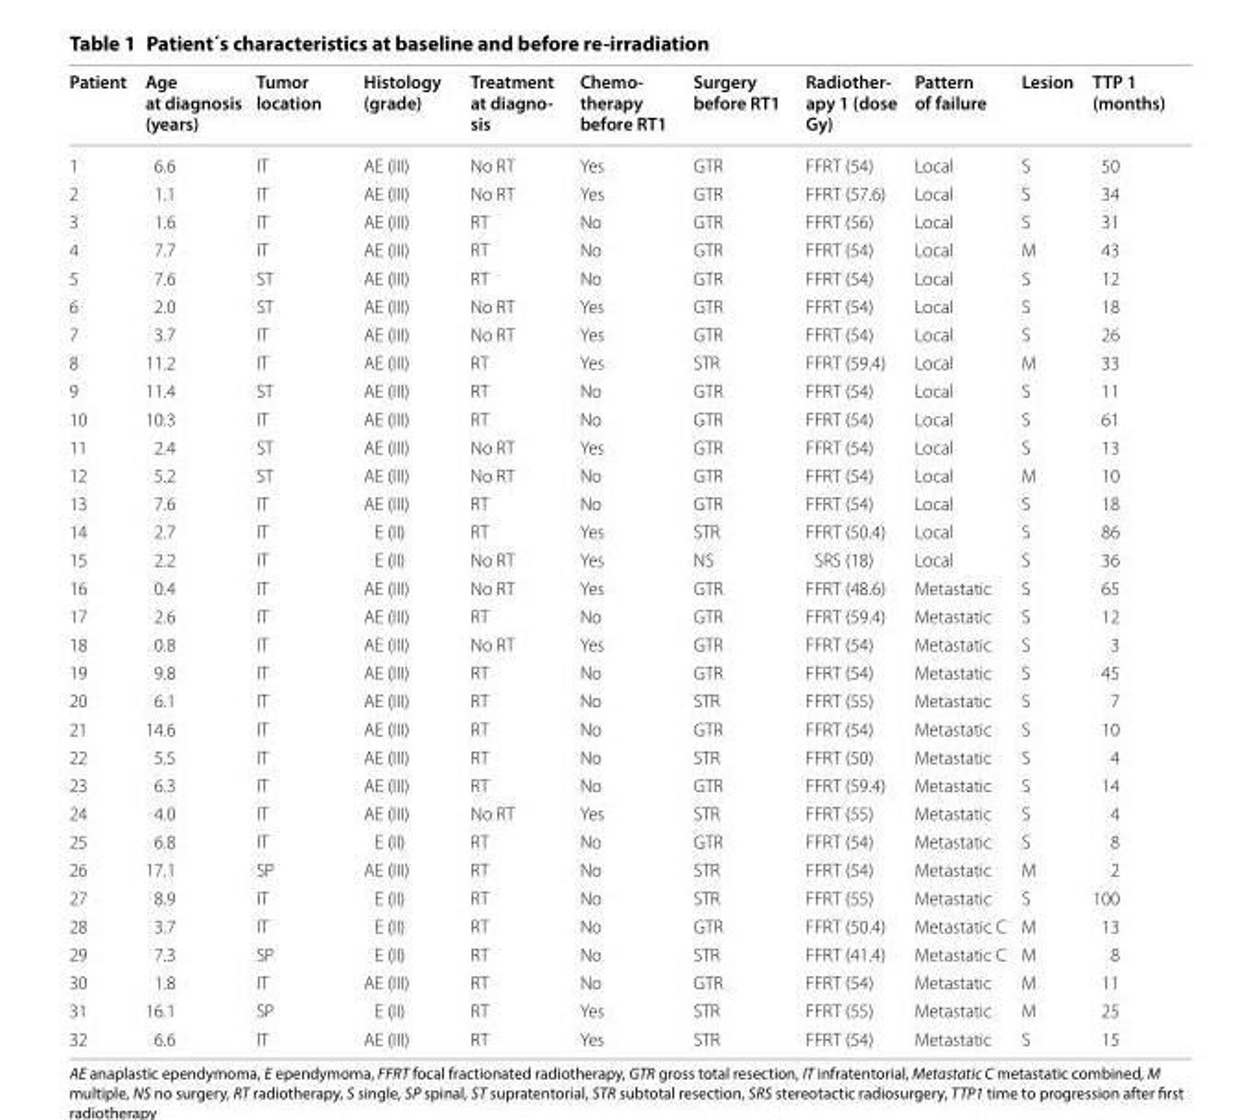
<table><thead><tr><td>Patient</td><td>Age at diagnosis (years)</td><td>Tumor location</td><td>Histology (grade)</td><td>Treatment at diagno- sis</td><td>Chemo- therapy before RT1</td><td>Surgery before RT1</td><td>Radiother- apy 1 (dose Gy)</td><td>Pattern of failure</td><td>Lesion</td><td>TTP 1 (months)</td></tr></thead><tbody><tr><td>1</td><td>6.6</td><td>IT</td><td>AE (III)</td><td>No RT</td><td>Yes</td><td>GTR</td><td>FFRT (54)</td><td>Local</td><td>S</td><td>50</td></tr><tr><td>2</td><td>1.1</td><td>IT</td><td>AE (III)</td><td>No RT</td><td>Yes</td><td>GTR</td><td>FFRT (57.6)</td><td>Local</td><td>S</td><td>34</td></tr><tr><td>3</td><td>1.6</td><td>IT</td><td>AE (III)</td><td>RT</td><td>No</td><td>GTR</td><td>FFRT (56)</td><td>Local</td><td>S</td><td>31</td></tr><tr><td>4</td><td>7.7</td><td>IT</td><td>AE (III)</td><td>RT</td><td>No</td><td>GTR</td><td>FFRT (54)</td><td>Local</td><td>M</td><td>43</td></tr><tr><td>5</td><td>7.6</td><td>ST</td><td>AE (III)</td><td>RT</td><td>No</td><td>GTR</td><td>FFRT (54)</td><td>Local</td><td>S</td><td>12</td></tr><tr><td>6</td><td>2.0</td><td>ST</td><td>AE (III)</td><td>No RT</td><td>Yes</td><td>GTR</td><td>FFRT (54)</td><td>Local</td><td>S</td><td>18</td></tr><tr><td>7</td><td>3.7</td><td>IT</td><td>AE (III)</td><td>No RT</td><td>Yes</td><td>GTR</td><td>FFRT (54)</td><td>Local</td><td>S</td><td>26</td></tr><tr><td>8</td><td>11.2</td><td>IT</td><td>AE (III)</td><td>RT</td><td>Yes</td><td>STR</td><td>FFRT (59.4)</td><td>Local</td><td>M</td><td>33</td></tr><tr><td>9</td><td>11.4</td><td>ST</td><td>AE (III)</td><td>RT</td><td>No</td><td>GTR</td><td>FFRT (54)</td><td>Local</td><td>S</td><td>11</td></tr><tr><td>10</td><td>10.3</td><td>IT</td><td>AE (III)</td><td>RT</td><td>No</td><td>GTR</td><td>FFRT (54)</td><td>Local</td><td>S</td><td>61</td></tr><tr><td>11</td><td>2.4</td><td>ST</td><td>AE (III)</td><td>No RT</td><td>Yes</td><td>GTR</td><td>FFRT (54)</td><td>Local</td><td>S</td><td>13</td></tr><tr><td>12</td><td>5.2</td><td>ST</td><td>AE (III)</td><td>No RT</td><td>No</td><td>GTR</td><td>FFRT (54)</td><td>Local</td><td>M</td><td>10</td></tr><tr><td>13</td><td>7.6</td><td>IT</td><td>AE (III)</td><td>RT</td><td>No</td><td>GTR</td><td>FFRT (54)</td><td>Local</td><td>S</td><td>18</td></tr><tr><td>14</td><td>2.7</td><td>IT</td><td>E (II)</td><td>RT</td><td>Yes</td><td>STR</td><td>FFRT (50.4)</td><td>Local</td><td>S</td><td>86</td></tr><tr><td>15</td><td>2.2</td><td>IT</td><td>E (II)</td><td>No RT</td><td>Yes</td><td>NS</td><td>SRS (18)</td><td>Local</td><td>S</td><td>36</td></tr><tr><td>16</td><td>0.4</td><td>IT</td><td>AE (III)</td><td>No RT</td><td>Yes</td><td>GTR</td><td>FFRT (48.6)</td><td>Metastatic</td><td>S</td><td>65</td></tr><tr><td>17</td><td>2.6</td><td>IT</td><td>AE (III)</td><td>RT</td><td>No</td><td>GTR</td><td>FFRT (59.4)</td><td>Metastatic</td><td>S</td><td>12</td></tr><tr><td>18</td><td>0.8</td><td>IT</td><td>AE (III)</td><td>No RT</td><td>Yes</td><td>GTR</td><td>FFRT (54)</td><td>Metastatic</td><td>S</td><td>3</td></tr><tr><td>19</td><td>9.8</td><td>IT</td><td>AE (III)</td><td>RT</td><td>No</td><td>GTR</td><td>FFRT (54)</td><td>Metastatic</td><td>S</td><td>45</td></tr><tr><td>20</td><td>6.1</td><td>IT</td><td>AE (III)</td><td>RT</td><td>No</td><td>STR</td><td>FFRT (55)</td><td>Metastatic</td><td>S</td><td>7</td></tr><tr><td>21</td><td>14.6</td><td>IT</td><td>AE (III)</td><td>RT</td><td>No</td><td>GTR</td><td>FFRT (54)</td><td>Metastatic</td><td>S</td><td>10</td></tr><tr><td>22</td><td>5.5</td><td>IT</td><td>AE (III)</td><td>RT</td><td>No</td><td>STR</td><td>FFRT (50)</td><td>Metastatic</td><td>S</td><td>4</td></tr><tr><td>23</td><td>6.3</td><td>IT</td><td>AE (III)</td><td>RT</td><td>No</td><td>GTR</td><td>FFRT (59.4)</td><td>Metastatic</td><td>S</td><td>14</td></tr><tr><td>24</td><td>4.0</td><td>IT</td><td>AE (III)</td><td>No RT</td><td>Yes</td><td>STR</td><td>FFRT (55)</td><td>Metastatic</td><td>S</td><td>4</td></tr><tr><td>25</td><td>6.8</td><td>IT</td><td>E (II)</td><td>RT</td><td>No</td><td>GTR</td><td>FFRT (54)</td><td>Metastatic</td><td>S</td><td>8</td></tr><tr><td>26</td><td>17.1</td><td>SP</td><td>AE (III)</td><td>RT</td><td>No</td><td>STR</td><td>FFRT (54)</td><td>Metastatic</td><td>M</td><td>2</td></tr><tr><td>27</td><td>8.9</td><td>IT</td><td>E (II)</td><td>RT</td><td>No</td><td>STR</td><td>FFRT (55)</td><td>Metastatic</td><td>S</td><td>100</td></tr><tr><td>28</td><td>3.7</td><td>IT</td><td>E (II)</td><td>RT</td><td>No</td><td>GTR</td><td>FFRT (50.4)</td><td>Metastatic C</td><td>M</td><td>13</td></tr><tr><td>29</td><td>7.3</td><td>SP</td><td>E (II)</td><td>RT</td><td>No</td><td>STR</td><td>FFRT (41.4)</td><td>Metastatic C</td><td>M</td><td>8</td></tr><tr><td>30</td><td>1.8</td><td>IT</td><td>AE (III)</td><td>RT</td><td>No</td><td>GTR</td><td>FFRT (54)</td><td>Metastatic</td><td>M</td><td>11</td></tr><tr><td>31</td><td>16.1</td><td>SP</td><td>E (II)</td><td>RT</td><td>Yes</td><td>STR</td><td>FFRT (55)</td><td>Metastatic</td><td>M</td><td>25</td></tr><tr><td>32</td><td>6.6</td><td>IT</td><td>AE (III)</td><td>RT</td><td>Yes</td><td>STR</td><td>FFRT (54)</td><td>Metastatic</td><td>S</td><td>15</td></tr></tbody></table>